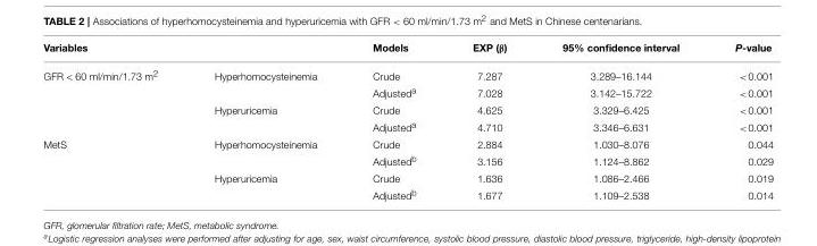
<table><thead><tr><td>Variables</td><td></td><td>Models</td><td>EXP (β)</td><td>95% confidence interval</td><td>P-value</td></tr></thead><tbody><tr><td rowspan="4">GFR &lt; 60 ml/min/1.73 m<sup>2</sup></td><td>Hyperhomocysteinemia</td><td>Crude</td><td>7.287</td><td>3.289–16.144</td><td>&lt;0.001</td></tr><tr><td></td><td>Adjusted<sup>a</sup></td><td>7.028</td><td>3.142–15.722</td><td>&lt;0.001</td></tr><tr><td>Hyperuricemia</td><td>Crude</td><td>4.625</td><td>3.329–6.425</td><td>&lt;0.001</td></tr><tr><td></td><td>Adjusted<sup>a</sup></td><td>4.710</td><td>3.346–6.631</td><td>&lt;0.001</td></tr><tr><td rowspan="4">MetS</td><td>Hyperhomocysteinemia</td><td>Crude</td><td>2.884</td><td>1.030–8.076</td><td>0.044</td></tr><tr><td></td><td>Adjusted<sup>b</sup></td><td>3.156</td><td>1.124–8.862</td><td>0.029</td></tr><tr><td>Hyperuricemia</td><td>Crude</td><td>1.636</td><td>1.086–2.466</td><td>0.019</td></tr><tr><td></td><td>Adjusted<sup>b</sup></td><td>1.677</td><td>1.109–2.538</td><td>0.014</td></tr></tbody></table>